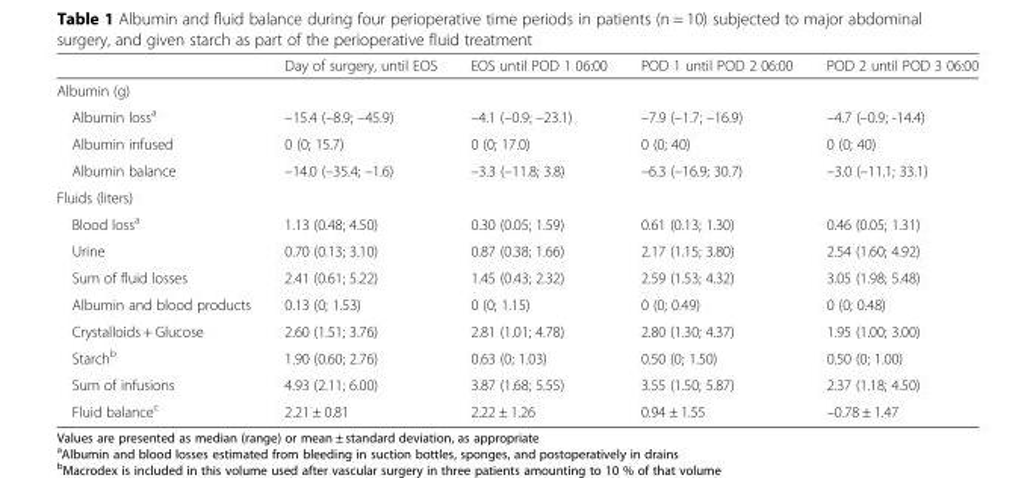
<table><thead><tr><td></td><td>Day of surgery, until EOS</td><td>EOS until POD 1 06:00</td><td>POD 1 until POD 2 06:00</td><td>POD 2 until POD 3 06:00</td></tr></thead><tbody><tr><td colspan="5">Albumin (g)</td></tr><tr><td>Albumin loss<sup>a</sup></td><td>–15.4 (–8.9; –45.9)</td><td>–4.1 (–0.9; –23.1)</td><td>–7.9 (–1.7; –16.9)</td><td>–4.7 (–0.9; -14.4)</td></tr><tr><td>Albumin infused</td><td>0 (0; 15.7)</td><td>0 (0; 17.0)</td><td>0 (0; 40)</td><td>0 (0; 40)</td></tr><tr><td>Albumin balance</td><td>–14.0 (–35.4; –1.6)</td><td>–3.3 (–11.8; 3.8)</td><td>–6.3 (–16.9; 30.7)</td><td>–3.0 (–11.1; 33.1)</td></tr><tr><td colspan="5">Fluids (liters)</td></tr><tr><td>Blood loss<sup>a</sup></td><td>1.13 (0.48; 4.50)</td><td>0.30 (0.05; 1.59)</td><td>0.61 (0.13; 1.30)</td><td>0.46 (0.05; 1.31)</td></tr><tr><td>Urine</td><td>0.70 (0.13; 3.10)</td><td>0.87 (0.38; 1.66)</td><td>2.17 (1.15; 3.80)</td><td>2.54 (1.60; 4.92)</td></tr><tr><td>Sum of fluid losses</td><td>2.41 (0.61; 5.22)</td><td>1.45 (0.43; 2.32)</td><td>2.59 (1.53; 4.32)</td><td>3.05 (1.98; 5.48)</td></tr><tr><td>Albumin and blood products</td><td>0.13 (0; 1.53)</td><td>0 (0; 1.15)</td><td>0 (0; 0.49)</td><td>0 (0; 0.48)</td></tr><tr><td>Crystalloids + Glucose</td><td>2.60 (1.51; 3.76)</td><td>2.81 (1.01; 4.78)</td><td>2.80 (1.30; 4.37)</td><td>1.95 (1.00; 3.00)</td></tr><tr><td>Starch<sup>b</sup></td><td>1.90 (0.60; 2.76)</td><td>0.63 (0; 1.03)</td><td>0.50 (0; 1.50)</td><td>0.50 (0; 1.00)</td></tr><tr><td>Sum of infusions</td><td>4.93 (2.11; 6.00)</td><td>3.87 (1.68; 5.55)</td><td>3.55 (1.50; 5.87)</td><td>2.37 (1.18; 4.50)</td></tr><tr><td>Fluid balance<sup>c</sup></td><td>2.21 ± 0.81</td><td>2.22 ± 1.26</td><td>0.94 ± 1.55</td><td>–0.78 ± 1.47</td></tr></tbody></table>